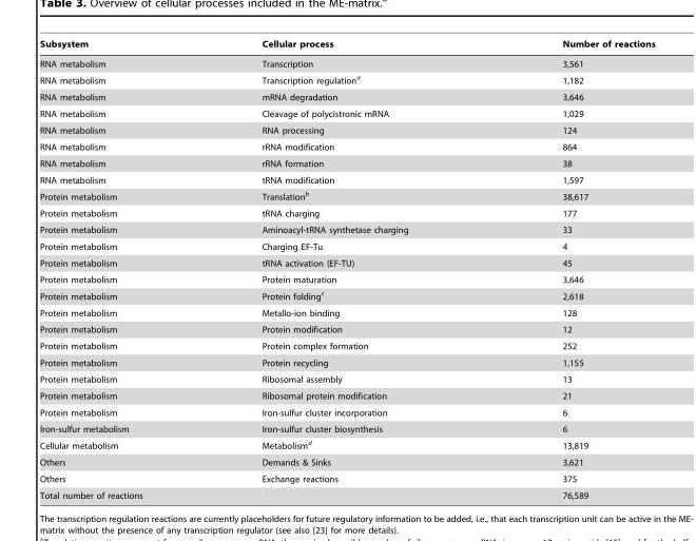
<table><thead><tr><td>Subsystem</td><td>Cellular process</td><td>Number of reactions</td></tr></thead><tbody><tr><td>RNA metabolism</td><td>Transcription</td><td>3,561</td></tr><tr><td>RNA metabolism</td><td>Transcription regulation<sup>a</sup></td><td>1,182</td></tr><tr><td>RNA metabolism</td><td>mRNA degradation</td><td>3,646</td></tr><tr><td>RNA metabolism</td><td>Cleavage of polycistronic mRNA</td><td>1,029</td></tr><tr><td>RNA metabolism</td><td>RNA processing</td><td>124</td></tr><tr><td>RNA metabolism</td><td>rRNA modification</td><td>864</td></tr><tr><td>RNA metabolism</td><td>rRNA formation</td><td>38</td></tr><tr><td>RNA metabolism</td><td>tRNA modification</td><td>1,597</td></tr><tr><td>Protein metabolism</td><td>Translation<sup>b</sup></td><td>38,617</td></tr><tr><td>Protein metabolism</td><td>tRNA charging</td><td>177</td></tr><tr><td>Protein metabolism</td><td>Aminoacyl-tRNA synthetase charging</td><td>33</td></tr><tr><td>Protein metabolism</td><td>Charging EF-Tu</td><td>4</td></tr><tr><td>Protein metabolism</td><td>tRNA activation (EF-TU)</td><td>45</td></tr><tr><td>Protein metabolism</td><td>Protein maturation</td><td>3,646</td></tr><tr><td>Protein metabolism</td><td>Protein folding<sup>c</sup></td><td>2,618</td></tr><tr><td>Protein metabolism</td><td>Metallo-ion binding</td><td>128</td></tr><tr><td>Protein metabolism</td><td>Protein modification</td><td>12</td></tr><tr><td>Protein metabolism</td><td>Protein complex formation</td><td>252</td></tr><tr><td>Protein metabolism</td><td>Protein recycling</td><td>1,155</td></tr><tr><td>Protein metabolism</td><td>Ribosomal assembly</td><td>13</td></tr><tr><td>Protein metabolism</td><td>Ribosomal protein modification</td><td>21</td></tr><tr><td>Protein metabolism</td><td>Iron-sulfur cluster incorporation</td><td>6</td></tr><tr><td>Iron-sulfur metabolism</td><td>Iron-sulfur cluster biosynthesis</td><td>6</td></tr><tr><td>Cellular metabolism</td><td>Metabolism<sup>d</sup></td><td>13,819</td></tr><tr><td>Others</td><td>Demands &amp; Sinks</td><td>3,621</td></tr><tr><td>Others</td><td>Exchange reactions</td><td>375</td></tr><tr><td>Total number of reactions</td><td></td><td>76,589</td></tr></tbody></table>